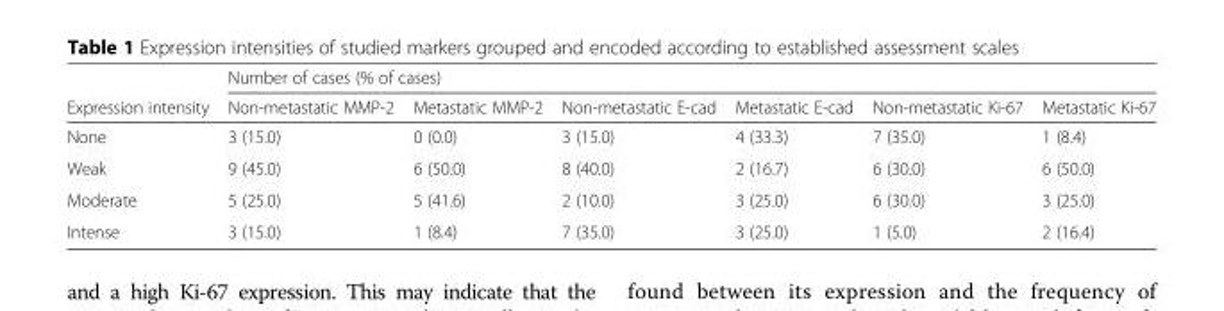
<table><thead><tr><td rowspan="2">Expression intensity</td><td colspan="6">Number of cases (% of cases)</td></tr><tr><td>Non-metastatic MMP-2</td><td>Metastatic MMP-2</td><td>Non-metastatic E-cad</td><td>Metastatic E-cad</td><td>Non-metastatic Ki-67</td><td>Metastatic Ki-67</td></tr></thead><tbody><tr><td>None</td><td>3 (15.0)</td><td>0 (0.0)</td><td>3 (15.0)</td><td>4 (33.3)</td><td>7 (35.0)</td><td>1 (8.4)</td></tr><tr><td>Weak</td><td>9 (45.0)</td><td>6 (50.0)</td><td>8 (40.0)</td><td>2 (16.7)</td><td>6 (30.0)</td><td>6 (50.0)</td></tr><tr><td>Moderate</td><td>5 (25.0)</td><td>5 (41.6)</td><td>2 (10.0)</td><td>3 (25.0)</td><td>6 (30.0)</td><td>3 (25.0)</td></tr><tr><td>Intense</td><td>3 (15.0)</td><td>1 (8.4)</td><td>7 (35.0)</td><td>3 (25.0)</td><td>1 (5.0)</td><td>2 (16.4)</td></tr></tbody></table>